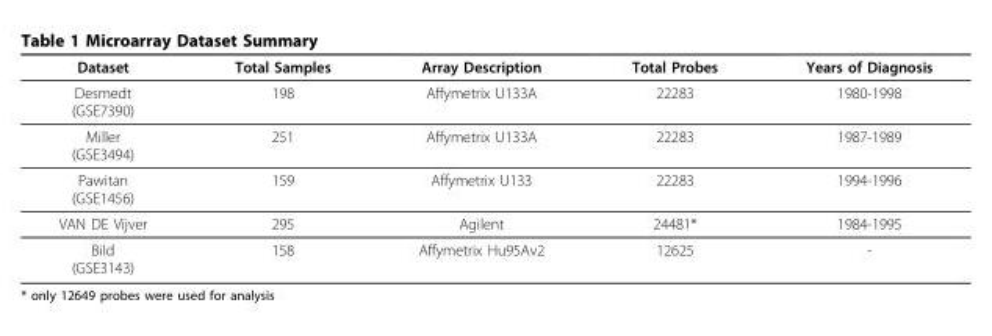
<table><thead><tr><td>Dataset</td><td>Total Samples</td><td>Array Description</td><td>Total Probes</td><td>Years of Diagnosis</td></tr></thead><tbody><tr><td>Desmedt (GSE7390)</td><td>198</td><td>Affymetrix U133A</td><td>22283</td><td>1980-1998</td></tr><tr><td>Miller (GSE3494)</td><td>251</td><td>Affymetrix U133A</td><td>22283</td><td>1987-1989</td></tr><tr><td>Pawitan (GSE1456)</td><td>159</td><td>Affymetrix U133</td><td>22283</td><td>1994-1996</td></tr><tr><td>VAN DE Vijver</td><td>295</td><td>Agilent</td><td>24481*</td><td>1984-1995</td></tr><tr><td>Bild (GSE3143)</td><td>158</td><td>Affymetrix Hu95Av2</td><td>12625</td><td>-</td></tr></tbody></table>